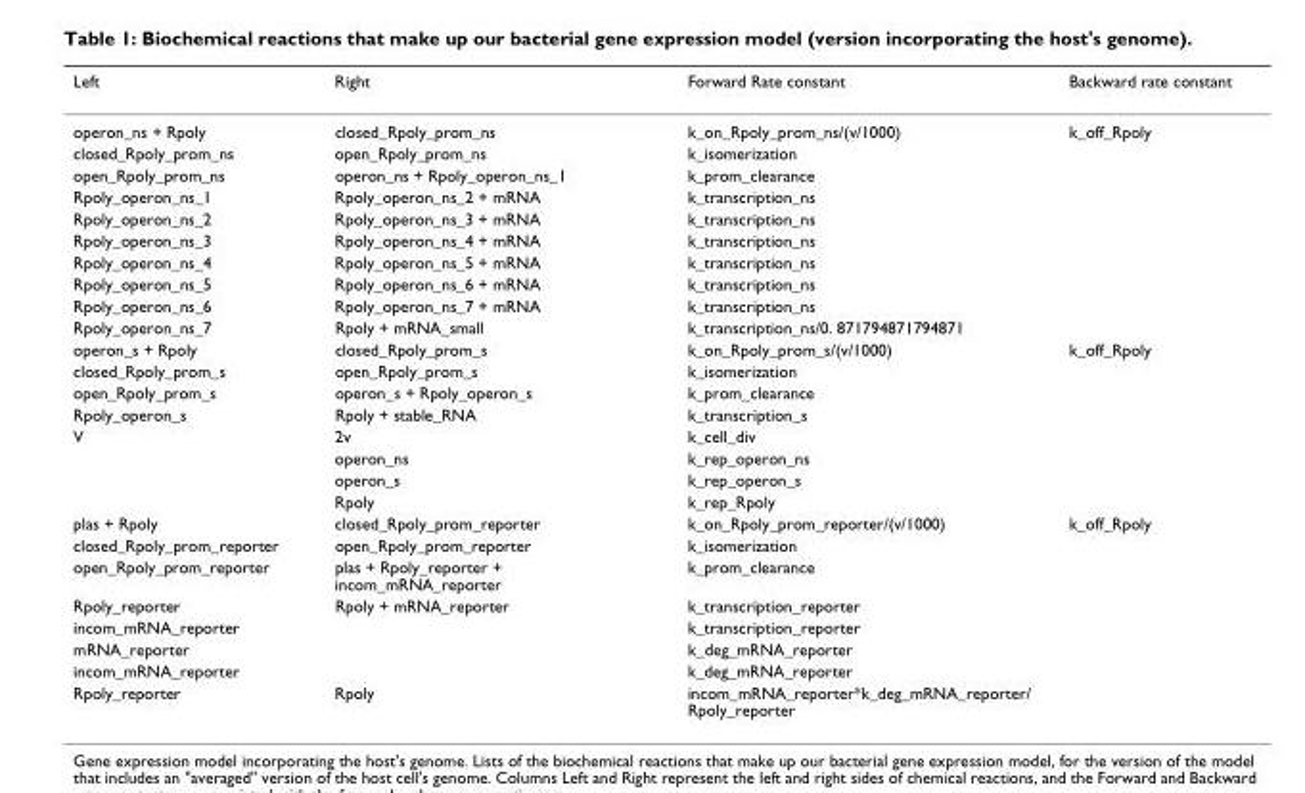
<table><thead><tr><td>Left</td><td>Right</td><td>Forward Rate constant</td><td>Backward rate constant</td></tr></thead><tbody><tr><td>operon_ns + Rpoly</td><td>closed_Rpoly_prom_ns</td><td>k_on_Rpoly_prom_ns/(v/1000)</td><td>k_off_Rpoly</td></tr><tr><td>closed_Rpoly_prom_ns</td><td>open_Rpoly_prom_ns</td><td>k_isomerization</td><td></td></tr><tr><td>open_Rpoly_prom_ns</td><td>operon_ns + Rpoly_operon_ns_1</td><td>k_prom_clearance</td><td></td></tr><tr><td>Rpoly_operon_ns_1</td><td>Rpoly_operon_ns_2 + mRNA</td><td>k_transcription_ns</td><td></td></tr><tr><td>Rpoly_operon_ns_2</td><td>Rpoly_operon_ns_3 + mRNA</td><td>k_transcription_ns</td><td></td></tr><tr><td>Rpoly_operon_ns_3</td><td>Rpoly_operon_ns_4 + mRNA</td><td>k_transcription_ns</td><td></td></tr><tr><td>Rpoly_operon_ns_4</td><td>Rpoly_operon_ns_5 + mRNA</td><td>k_transcription_ns</td><td></td></tr><tr><td>Rpoly_operon_ns_5</td><td>Rpoly_operon_ns_6 + mRNA</td><td>k_transcription_ns</td><td></td></tr><tr><td>Rpoly_operon_ns_6</td><td>Rpoly_operon_ns_7 + mRNA</td><td>k_transcription_ns</td><td></td></tr><tr><td>Rpoly_operon_ns_7</td><td>Rpoly + mRNA_small</td><td>k_transcription_ns/0. 871794871794871</td><td></td></tr><tr><td>operon_s + Rpoly</td><td>closed_Rpoly_prom_s</td><td>k_on_Rpoly_prom_s/(v/1000)</td><td>k_off_Rpoly</td></tr><tr><td>closed_Rpoly_prom_s</td><td>open_Rpoly_prom_s</td><td>k_isomerization</td><td></td></tr><tr><td>open_Rpoly_prom_s</td><td>operon_s + Rpoly_operon_s</td><td>k_prom_clearance</td><td></td></tr><tr><td>Rpoly_operon_s</td><td>Rpoly + stable_RNA</td><td>k_transcription_s</td><td></td></tr><tr><td rowspan="4">V</td><td>2v</td><td>k_cell_div</td><td></td></tr><tr><td>operon_ns</td><td>k_rep_operon_ns</td><td></td></tr><tr><td>operon_s</td><td>k_rep_operon_s</td><td></td></tr><tr><td>Rpoly</td><td>k_rep_Rpoly</td><td></td></tr><tr><td>plas + Rpoly</td><td>closed_Rpoly_prom_reporter</td><td>k_on_Rpoly_prom_reporter/(v/1000)</td><td>k_off_Rpoly</td></tr><tr><td>closed_Rpoly_prom_reporter</td><td>open_Rpoly_prom_reporter</td><td>k_isomerization</td><td></td></tr><tr><td>open_Rpoly_prom_reporter</td><td>plas + Rpoly_reporter + incom_mRNA_reporter</td><td>k_prom_clearance</td><td></td></tr><tr><td>Rpoly_reporter</td><td>Rpoly + mRNA_reporter</td><td>k_transcription_reporter</td><td></td></tr><tr><td>incom_mRNA_reporter</td><td></td><td>k_transcription_reporter</td><td></td></tr><tr><td>mRNA_reporter</td><td></td><td>k_deg_mRNA_reporter</td><td></td></tr><tr><td>incom_mRNA_reporter</td><td></td><td>k_deg_mRNA_reporter</td><td></td></tr><tr><td>Rpoly_reporter</td><td>Rpoly</td><td>incom_mRNA_reporter*k_deg_mRNA_reporter/ Rpoly_reporter</td><td></td></tr></tbody></table>